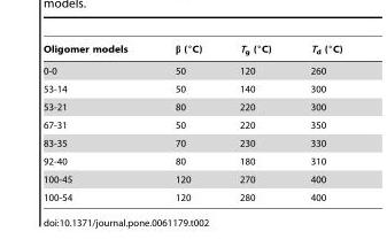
<table><thead><tr><td>Oligomer models</td><td>β (°C)</td><td>T<sub>g</sub> (°C)</td><td>T<sub>d</sub> (°C)</td></tr></thead><tbody><tr><td>0-0</td><td>50</td><td>120</td><td>260</td></tr><tr><td>53-14</td><td>50</td><td>140</td><td>300</td></tr><tr><td>53-21</td><td>80</td><td>220</td><td>300</td></tr><tr><td>67-31</td><td>50</td><td>220</td><td>350</td></tr><tr><td>83-35</td><td>70</td><td>230</td><td>330</td></tr><tr><td>92-40</td><td>80</td><td>180</td><td>310</td></tr><tr><td>100-45</td><td>120</td><td>270</td><td>400</td></tr><tr><td>100-54</td><td>120</td><td>280</td><td>400</td></tr></tbody></table>